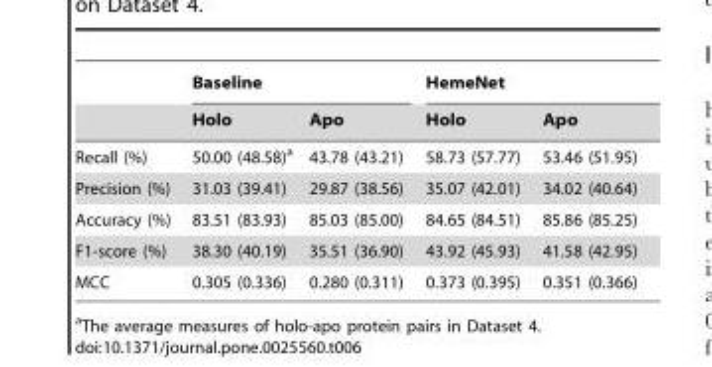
<table><thead><tr><td rowspan="2"></td><td colspan="2">Baseline</td><td colspan="2">HemeNet</td></tr><tr><td>Holo</td><td>Apo</td><td>Holo</td><td>Apo</td></tr></thead><tbody><tr><td>Recall (%)</td><td>50.00 (48.58)<sup>a</sup></td><td>43.78 (43.21)</td><td>58.73 (57.77)</td><td>53.46 (51.95)</td></tr><tr><td>Precision (%)</td><td>31.03 (39.41)</td><td>29.87 (38.56)</td><td>35.07 (42.01)</td><td>34.02 (40.64)</td></tr><tr><td>Accuracy (%)</td><td>83.51 (83.93)</td><td>85.03 (85.00)</td><td>84.65 (84.51)</td><td>85.86 (85.25)</td></tr><tr><td>F1-score (%)</td><td>38.30 (40.19)</td><td>35.51 (36.90)</td><td>43.92 (45.93)</td><td>41.58 (42.95)</td></tr><tr><td>MCC</td><td>0.305 (0.336)</td><td>0.280 (0.311)</td><td>0.373 (0.395)</td><td>0.351 (0.366)</td></tr></tbody></table>